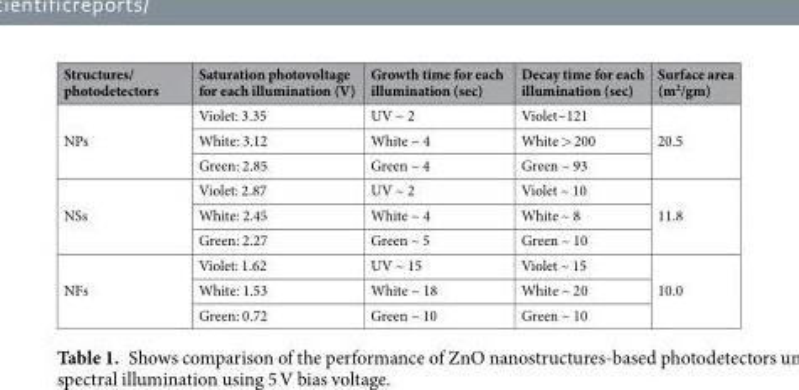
<table><thead><tr><td>Structures/ photodetectors</td><td>Saturation photovoltage for each illumination (V)</td><td>Growth time for each illumination (sec)</td><td>Decay time for each illumination (sec)</td><td>Surface area (m<sup>2</sup>/gm)</td></tr></thead><tbody><tr><td rowspan="3">NPs</td><td>Violet: 3.35</td><td>UV ~ 2</td><td>Violet~121</td><td rowspan="3">20.5</td></tr><tr><td>White: 3.12</td><td>White ~ 4</td><td>White &gt; 200</td></tr><tr><td>Green: 2.85</td><td>Green ~ 4</td><td>Green ~ 93</td></tr><tr><td rowspan="3">NSs</td><td>Violet: 2.87</td><td>UV ~ 2</td><td>Violet ~ 10</td><td rowspan="3">11.8</td></tr><tr><td>White: 2.45</td><td>White ~ 4</td><td>White ~ 8</td></tr><tr><td>Green: 2.27</td><td>Green ~ 5</td><td>Green ~ 10</td></tr><tr><td rowspan="3">NFs</td><td>Violet: 1.62</td><td>UV ~ 15</td><td>Violet ~ 15</td><td rowspan="3">10.0</td></tr><tr><td>White: 1.53</td><td>White ~ 18</td><td>White ~ 20</td></tr><tr><td>Green: 0.72</td><td>Green ~ 10</td><td>Green ~ 10</td></tr></tbody></table>